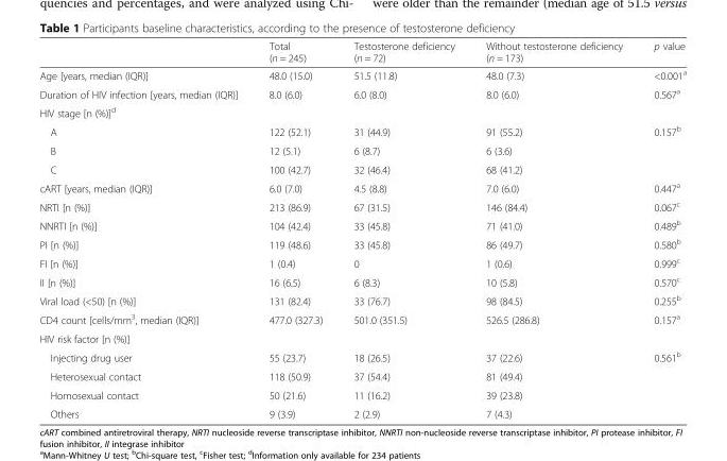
<table><thead><tr><td></td><td>Total (n = 245)</td><td>Testosterone deficiency (n = 72)</td><td>Without testosterone deficiency (n = 173)</td><td>p value</td></tr></thead><tbody><tr><td>Age [years, median (IQR)]</td><td>48.0 (15.0)</td><td>51.5 (11.8)</td><td>48.0 (7.3)</td><td>&lt;0.001<sup>a</sup></td></tr><tr><td>Duration of HIV infection [years, median (IQR)]</td><td>8.0 (6.0)</td><td>6.0 (8.0)</td><td>8.0 (6.0)</td><td>0.567<sup>a</sup></td></tr><tr><td colspan="5">HIV stage [n (%)]<sup>d</sup></td></tr><tr><td>A</td><td>122 (52.1)</td><td>31 (44.9)</td><td>91 (55.2)</td><td>0.157<sup>b</sup></td></tr><tr><td>B</td><td>12 (5.1)</td><td>6 (8.7)</td><td>6 (3.6)</td><td></td></tr><tr><td>C</td><td>100 (42.7)</td><td>32 (46.4)</td><td>68 (41.2)</td><td></td></tr><tr><td>cART [years, median (IQR)]</td><td>6.0 (7.0)</td><td>4.5 (8.8)</td><td>7.0 (6.0)</td><td>0.447<sup>a</sup></td></tr><tr><td>NRTI [n (%)]</td><td>213 (86.9)</td><td>67 (31.5)</td><td>146 (84.4)</td><td>0.067<sup>c</sup></td></tr><tr><td>NNRTI [n (%)]</td><td>104 (42.4)</td><td>33 (45.8)</td><td>71 (41.0)</td><td>0.489<sup>b</sup></td></tr><tr><td>PI [n (%)]</td><td>119 (48.6)</td><td>33 (45.8)</td><td>86 (49.7)</td><td>0.580<sup>b</sup></td></tr><tr><td>FI [n (%)]</td><td>1 (0.4)</td><td>0</td><td>1 (0.6)</td><td>0.999<sup>c</sup></td></tr><tr><td>II [n (%)]</td><td>16 (6.5)</td><td>6 (8.3)</td><td>10 (5.8)</td><td>0.570<sup>c</sup></td></tr><tr><td>Viral load (&lt;50) [n (%)]</td><td>131 (82.4)</td><td>33 (76.7)</td><td>98 (84.5)</td><td>0.255<sup>b</sup></td></tr><tr><td>CD4 count [cells/mm<sup>3</sup>, median (IQR)]</td><td>477.0 (327.3)</td><td>501.0 (351.5)</td><td>526.5 (286.8)</td><td>0.157<sup>a</sup></td></tr><tr><td colspan="5">HIV risk factor [n (%)]</td></tr><tr><td>Injecting drug user</td><td>55 (23.7)</td><td>18 (26.5)</td><td>37 (22.6)</td><td>0.561<sup>b</sup></td></tr><tr><td>Heterosexual contact</td><td>118 (50.9)</td><td>37 (54.4)</td><td>81 (49.4)</td><td></td></tr><tr><td>Homosexual contact</td><td>50 (21.6)</td><td>11 (16.2)</td><td>39 (23.8)</td><td></td></tr><tr><td>Others</td><td>9 (3.9)</td><td>2 (2.9)</td><td>7 (4.3)</td><td></td></tr></tbody></table>